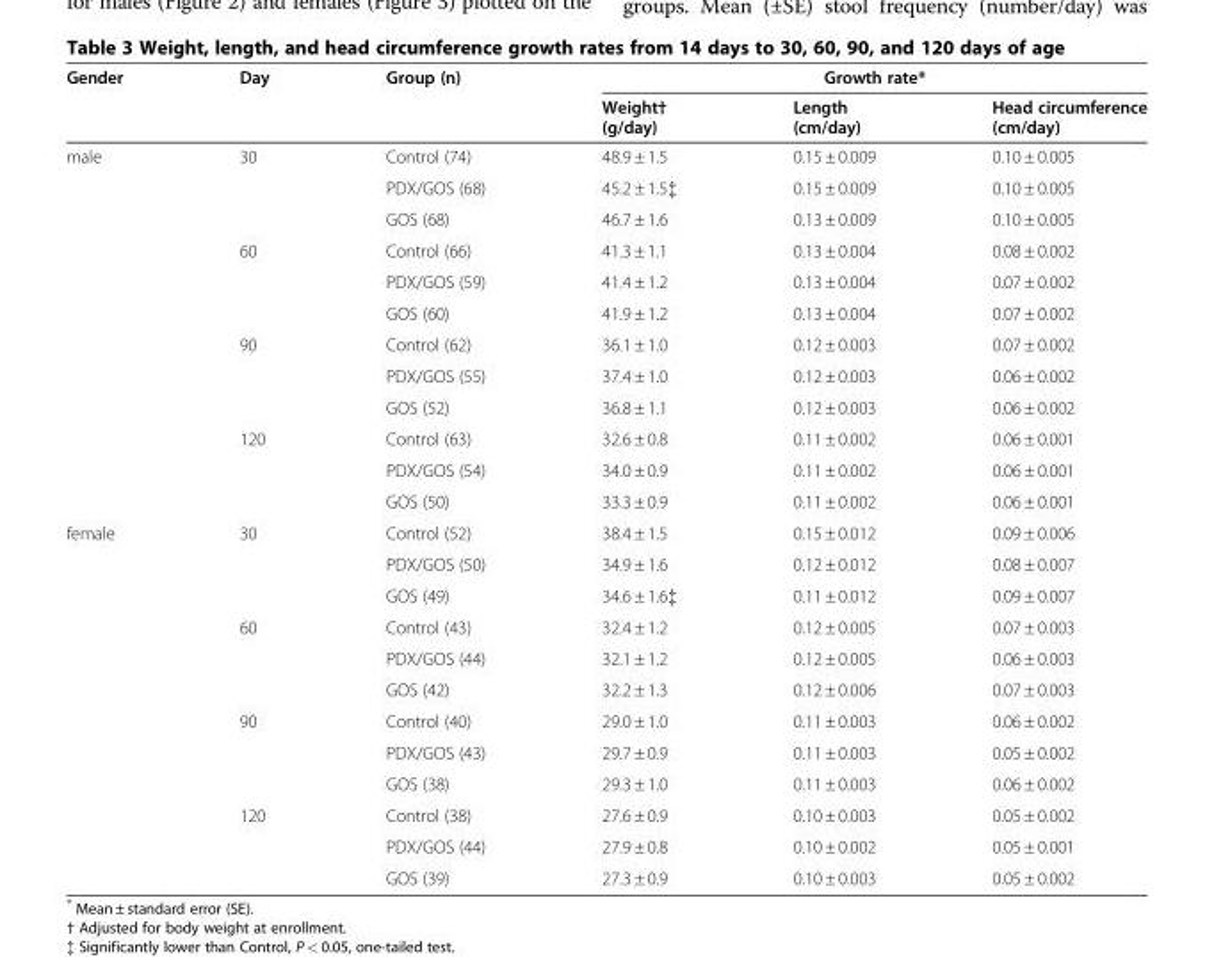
<table><thead><tr><td rowspan="2">Gender</td><td rowspan="2">Day</td><td rowspan="2">Group (n)</td><td colspan="3">Growth rate*</td></tr><tr><td>Weight† (g/day)</td><td>Length (cm/day)</td><td>Head circumference (cm/day)</td></tr></thead><tbody><tr><td rowspan="12">male</td><td>30</td><td>Control (74)</td><td>48.9 ± 1.5</td><td>0.15 ± 0.009</td><td>0.10 ± 0.005</td></tr><tr><td></td><td>PDX/GOS (68)</td><td>45.2 ± 1.5‡</td><td>0.15 ± 0.009</td><td>0.10 ± 0.005</td></tr><tr><td></td><td>GOS (68)</td><td>46.7 ± 1.6</td><td>0.13 ± 0.009</td><td>0.10 ± 0.005</td></tr><tr><td>60</td><td>Control (66)</td><td>41.3 ± 1.1</td><td>0.13 ± 0.004</td><td>0.08 ± 0.002</td></tr><tr><td></td><td>PDX/GOS (59)</td><td>41.4 ± 1.2</td><td>0.13 ± 0.004</td><td>0.07 ± 0.002</td></tr><tr><td></td><td>GOS (60)</td><td>41.9 ± 1.2</td><td>0.13 ± 0.004</td><td>0.07 ± 0.002</td></tr><tr><td>90</td><td>Control (62)</td><td>36.1 ± 1.0</td><td>0.12 ± 0.003</td><td>0.07 ± 0.002</td></tr><tr><td></td><td>PDX/GOS (55)</td><td>37.4 ± 1.0</td><td>0.12 ± 0.003</td><td>0.06 ± 0.002</td></tr><tr><td></td><td>GOS (52)</td><td>36.8 ± 1.1</td><td>0.12 ± 0.003</td><td>0.06 ± 0.002</td></tr><tr><td>120</td><td>Control (63)</td><td>32.6 ± 0.8</td><td>0.11 ± 0.002</td><td>0.06 ± 0.001</td></tr><tr><td></td><td>PDX/GOS (54)</td><td>34.0 ± 0.9</td><td>0.11 ± 0.002</td><td>0.06 ± 0.001</td></tr><tr><td></td><td>GOS (50)</td><td>33.3 ± 0.9</td><td>0.11 ± 0.002</td><td>0.06 ± 0.001</td></tr><tr><td rowspan="12">female</td><td>30</td><td>Control (52)</td><td>38.4 ± 1.5</td><td>0.15 ± 0.012</td><td>0.09 ± 0.006</td></tr><tr><td></td><td>PDX/GOS (50)</td><td>34.9 ± 1.6</td><td>0.12 ± 0.012</td><td>0.08 ± 0.007</td></tr><tr><td></td><td>GOS (49)</td><td>34.6 ± 1.6‡</td><td>0.11 ± 0.012</td><td>0.09 ± 0.007</td></tr><tr><td>60</td><td>Control (43)</td><td>32.4 ± 1.2</td><td>0.12 ± 0.005</td><td>0.07 ± 0.003</td></tr><tr><td></td><td>PDX/GOS (44)</td><td>32.1 ± 1.2</td><td>0.12 ± 0.005</td><td>0.06 ± 0.003</td></tr><tr><td></td><td>GOS (42)</td><td>32.2 ± 1.3</td><td>0.12 ± 0.006</td><td>0.07 ± 0.003</td></tr><tr><td>90</td><td>Control (40)</td><td>29.0 ± 1.0</td><td>0.11 ± 0.003</td><td>0.06 ± 0.002</td></tr><tr><td></td><td>PDX/GOS (43)</td><td>29.7 ± 0.9</td><td>0.11 ± 0.003</td><td>0.05 ± 0.002</td></tr><tr><td></td><td>GOS (38)</td><td>29.3 ± 1.0</td><td>0.11 ± 0.003</td><td>0.06 ± 0.002</td></tr><tr><td>120</td><td>Control (38)</td><td>27.6 ± 0.9</td><td>0.10 ± 0.003</td><td>0.05 ± 0.002</td></tr><tr><td></td><td>PDX/GOS (44)</td><td>27.9 ± 0.8</td><td>0.10 ± 0.002</td><td>0.05 ± 0.001</td></tr><tr><td></td><td>GOS (39)</td><td>27.3 ± 0.9</td><td>0.10 ± 0.003</td><td>0.05 ± 0.002</td></tr></tbody></table>